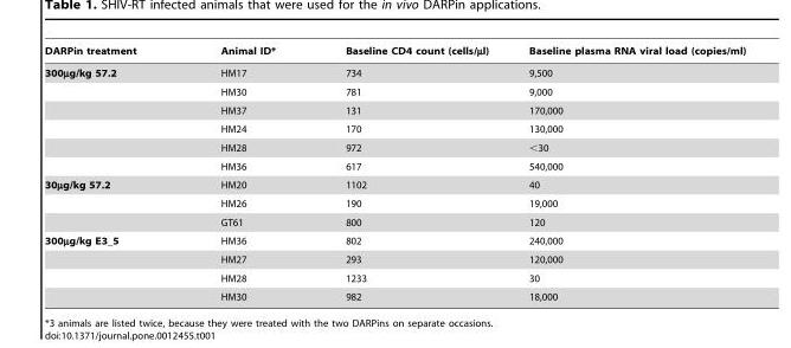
<table><thead><tr><td>DARPin treatment</td><td>Animal ID*</td><td>Baseline CD4 count (cells/µl)</td><td>Baseline plasma RNA viral load (copies/ml)</td></tr></thead><tbody><tr><td rowspan="6">300µg/kg 57.2</td><td>HM17</td><td>734</td><td>9,500</td></tr><tr><td>HM30</td><td>781</td><td>9,000</td></tr><tr><td>HM37</td><td>131</td><td>170,000</td></tr><tr><td>HM24</td><td>170</td><td>130,000</td></tr><tr><td>HM28</td><td>972</td><td>&lt;30</td></tr><tr><td>HM36</td><td>617</td><td>540,000</td></tr><tr><td rowspan="3">30µg/kg 57.2</td><td>HM20</td><td>1102</td><td>40</td></tr><tr><td>HM26</td><td>190</td><td>19,000</td></tr><tr><td>GT61</td><td>800</td><td>120</td></tr><tr><td rowspan="4">300µg/kg E3_5</td><td>HM36</td><td>802</td><td>240,000</td></tr><tr><td>HM27</td><td>293</td><td>120,000</td></tr><tr><td>HM28</td><td>1233</td><td>30</td></tr><tr><td>HM30</td><td>982</td><td>18,000</td></tr></tbody></table>